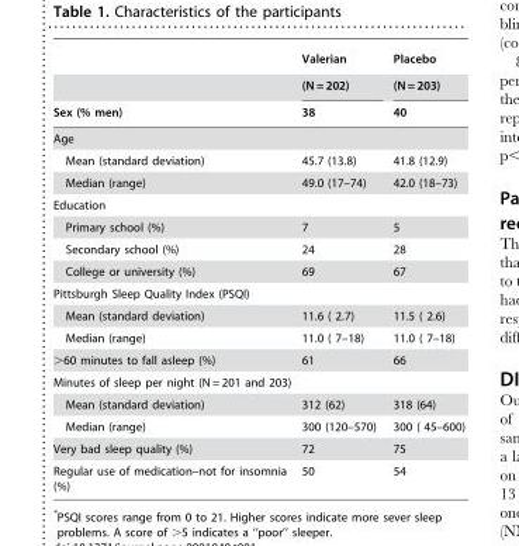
<table><thead><tr><td rowspan="3">Sex (% men)</td><td rowspan="3">Valerian (N = 202) 38</td><td rowspan="3">Placebo (N = 203) 40</td></tr><tr></tr><tr></tr></thead><tbody><tr><td colspan="3">Age</td></tr><tr><td>Mean (standard deviation)</td><td>45.7 (13.8)</td><td>41.8 (12.9)</td></tr><tr><td>Median (range)</td><td>49.0 (17–74)</td><td>42.0 (18–73)</td></tr><tr><td colspan="3">Education</td></tr><tr><td>Primary school (%)</td><td>7</td><td>5</td></tr><tr><td>Secondary school (%)</td><td>24</td><td>28</td></tr><tr><td>College or university (%)</td><td>69</td><td>67</td></tr><tr><td colspan="3">Pittsburgh Sleep Quality Index (PSQI)</td></tr><tr><td>Mean (standard deviation)</td><td>11.6 ( 2.7)</td><td>11.5 ( 2.6)</td></tr><tr><td>Median (range)</td><td>11.0 ( 7–18)</td><td>11.0 ( 7–18)</td></tr><tr><td>&gt;60 minutes to fall asleep (%)</td><td>61</td><td>66</td></tr><tr><td colspan="3">Minutes of sleep per night (N = 201 and 203)</td></tr><tr><td>Mean (standard deviation)</td><td>312 (62)</td><td>318 (64)</td></tr><tr><td>Median (range)</td><td>300 (120–570)</td><td>300 ( 45–600)</td></tr><tr><td>Very bad sleep quality (%)</td><td>72</td><td>75</td></tr><tr><td>Regular use of medication–not for insomnia (%)</td><td>50</td><td>54</td></tr></tbody></table>